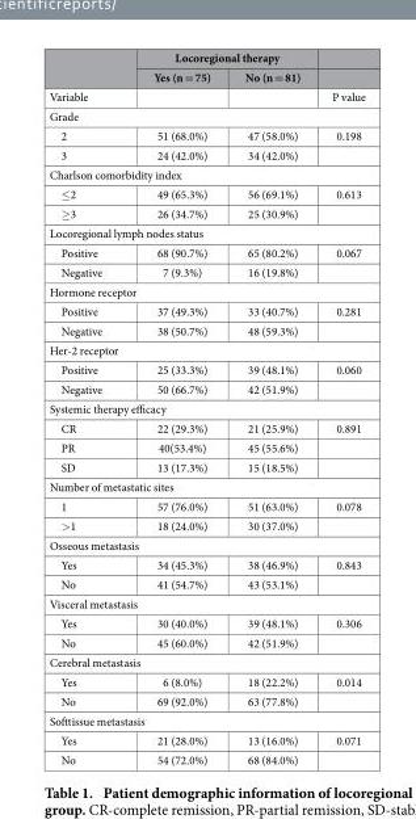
<table><thead><tr><td rowspan="2"></td><td colspan="2">Locoregional therapy</td><td rowspan="2"></td></tr><tr><td>Yes (n = 75)</td><td>No (n = 81)</td></tr></thead><tbody><tr><td>Variable</td><td></td><td></td><td>P value</td></tr><tr><td colspan="4">Grade</td></tr><tr><td>2</td><td>51 (68.0%)</td><td>47 (58.0%)</td><td>0.198</td></tr><tr><td>3</td><td>24 (42.0%)</td><td>34 (42.0%)</td><td></td></tr><tr><td colspan="4">Charlson comorbidity index</td></tr><tr><td>≤ 2</td><td>49 (65.3%)</td><td>56 (69.1%)</td><td>0.613</td></tr><tr><td>≥ 3</td><td>26 (34.7%)</td><td>25 (30.9%)</td><td></td></tr><tr><td colspan="4">Locoregional lymph nodes status</td></tr><tr><td>Positive</td><td>68 (90.7%)</td><td>65 (80.2%)</td><td>0.067</td></tr><tr><td>Negative</td><td>7 (9.3%)</td><td>16 (19.8%)</td><td></td></tr><tr><td colspan="4">Hormone receptor</td></tr><tr><td>Positive</td><td>37 (49.3%)</td><td>33 (40.7%)</td><td>0.281</td></tr><tr><td>Negative</td><td>38 (50.7%)</td><td>48 (59.3%)</td><td></td></tr><tr><td colspan="4">Her-2 receptor</td></tr><tr><td>Positive</td><td>25 (33.3%)</td><td>39 (48.1%)</td><td>0.060</td></tr><tr><td>Negative</td><td>50 (66.7%)</td><td>42 (51.9%)</td><td></td></tr><tr><td colspan="4">Systemic therapy efficacy</td></tr><tr><td>CR</td><td>22 (29.3%)</td><td>21 (25.9%)</td><td>0.891</td></tr><tr><td>PR</td><td>40(53.4%)</td><td>45 (55.6%)</td><td></td></tr><tr><td>SD</td><td>13 (17.3%)</td><td>15 (18.5%)</td><td></td></tr><tr><td colspan="4">Number of metastatic sites</td></tr><tr><td>1</td><td>57 (76.0%)</td><td>51 (63.0%)</td><td>0.078</td></tr><tr><td>&gt; 1</td><td>18 (24.0%)</td><td>30 (37.0%)</td><td></td></tr><tr><td colspan="4">Osseous metastasis</td></tr><tr><td>Yes</td><td>34 (45.3%)</td><td>38 (46.9%)</td><td>0.843</td></tr><tr><td>No</td><td>41 (54.7%)</td><td>43 (53.1%)</td><td></td></tr><tr><td colspan="4">Visceral metastasis</td></tr><tr><td>Yes</td><td>30 (40.0%)</td><td>39 (48.1%)</td><td>0.306</td></tr><tr><td>No</td><td>45 (60.0%)</td><td>42 (51.9%)</td><td></td></tr><tr><td colspan="4">Cerebral metastasis</td></tr><tr><td>Yes</td><td>6 (8.0%)</td><td>18 (22.2%)</td><td>0.014</td></tr><tr><td>No</td><td>69 (92.0%)</td><td>63 (77.8%)</td><td></td></tr><tr><td colspan="4">Softtissue metastasis</td></tr><tr><td>Yes</td><td>21 (28.0%)</td><td>13 (16.0%)</td><td>0.071</td></tr><tr><td>No</td><td>54 (72.0%)</td><td>68 (84.0%)</td><td></td></tr></tbody></table>